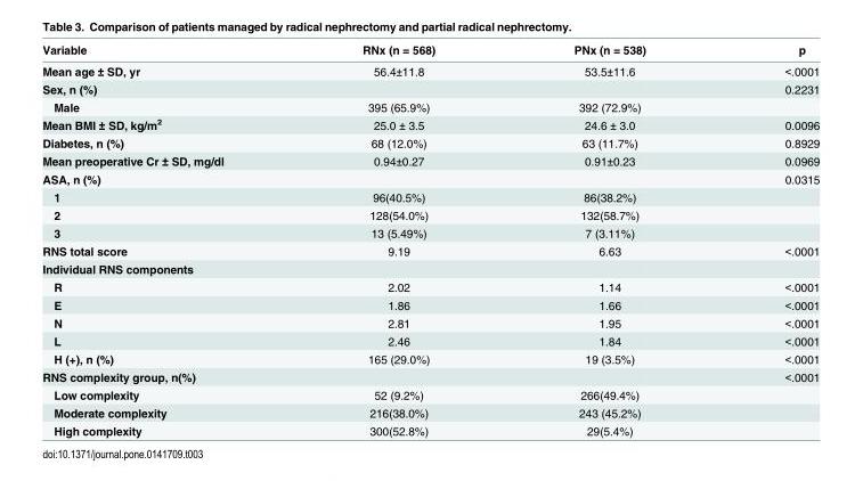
<table><thead><tr><td>Variable</td><td>RNx (n = 568)</td><td>PNx (n = 538)</td><td>p</td></tr></thead><tbody><tr><td>Mean age ± SD, yr</td><td>56.4±11.8</td><td>53.5±11.6</td><td>&lt;.0001</td></tr><tr><td>Sex, n (%)</td><td></td><td></td><td>0.2231</td></tr><tr><td>Male</td><td>395 (65.9%)</td><td>392 (72.9%)</td><td></td></tr><tr><td>Mean BMI ± SD, kg/m<sup>2</sup></td><td>25.0 ± 3.5</td><td>24.6 ± 3.0</td><td>0.0096</td></tr><tr><td>Diabetes, n (%)</td><td>68 (12.0%)</td><td>63 (11.7%)</td><td>0.8929</td></tr><tr><td>Mean preoperative Cr ± SD, mg/dl</td><td>0.94±0.27</td><td>0.91±0.23</td><td>0.0969</td></tr><tr><td>ASA, n (%)</td><td></td><td></td><td>0.0315</td></tr><tr><td>1</td><td>96(40.5%)</td><td>86(38.2%)</td><td></td></tr><tr><td>2</td><td>128(54.0%)</td><td>132(58.7%)</td><td></td></tr><tr><td>3</td><td>13 (5.49%)</td><td>7 (3.11%)</td><td></td></tr><tr><td>RNS total score</td><td>9.19</td><td>6.63</td><td>&lt;.0001</td></tr><tr><td colspan="4">Individual RNS components</td></tr><tr><td>R</td><td>2.02</td><td>1.14</td><td>&lt;.0001</td></tr><tr><td>E</td><td>1.86</td><td>1.66</td><td>&lt;.0001</td></tr><tr><td>N</td><td>2.81</td><td>1.95</td><td>&lt;.0001</td></tr><tr><td>L</td><td>2.46</td><td>1.84</td><td>&lt;.0001</td></tr><tr><td>H (+), n (%)</td><td>165 (29.0%)</td><td>19 (3.5%)</td><td>&lt;.0001</td></tr><tr><td>RNS complexity group, n(%)</td><td></td><td></td><td>&lt;.0001</td></tr><tr><td>Low complexity</td><td>52 (9.2%)</td><td>266(49.4%)</td><td></td></tr><tr><td>Moderate complexity</td><td>216(38.0%)</td><td>243 (45.2%)</td><td></td></tr><tr><td>High complexity</td><td>300(52.8%)</td><td>29(5.4%)</td><td></td></tr></tbody></table>